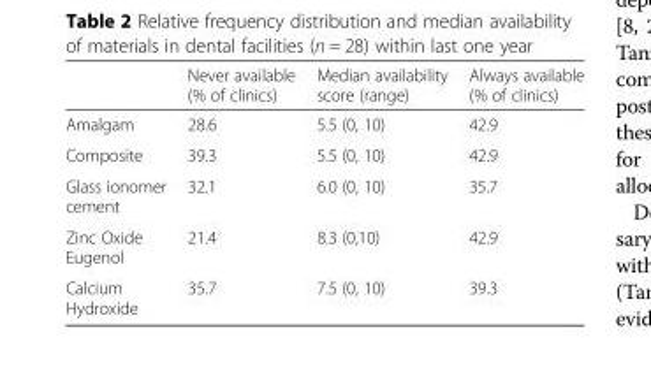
<table><thead><tr><td></td><td>Never available (% of clinics)</td><td>Median availability score (range)</td><td>Always available (% of clinics)</td></tr></thead><tbody><tr><td>Amalgam</td><td>28.6</td><td>5.5 (0, 10)</td><td>42.9</td></tr><tr><td>Composite</td><td>39.3</td><td>5.5 (0, 10)</td><td>42.9</td></tr><tr><td>Glass ionomer cement</td><td>32.1</td><td>6.0 (0, 10)</td><td>35.7</td></tr><tr><td>Zinc Oxide Eugenol</td><td>21.4</td><td>8.3 (0,10)</td><td>42.9</td></tr><tr><td>Calcium Hydroxide</td><td>35.7</td><td>7.5 (0, 10)</td><td>39.3</td></tr></tbody></table>